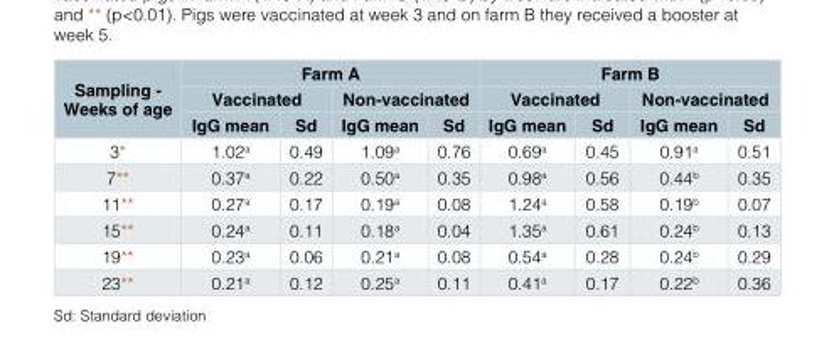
<table><thead><tr><td rowspan="3">Sampling - Weeks of age</td><td colspan="4">Farm A</td><td colspan="4">Farm B</td></tr><tr><td colspan="2">Vaccinated</td><td colspan="2">Non-vaccinated</td><td colspan="2">Vaccinated</td><td colspan="2">Non-vaccinated</td></tr><tr><td>IgG mean</td><td>Sd</td><td>IgG mean</td><td>Sd</td><td>IgG mean</td><td>Sd</td><td>IgG mean</td><td>Sd</td></tr></thead><tbody><tr><td>3*</td><td>1.02<sup>a</sup></td><td>0.49</td><td>1.09<sup>a</sup></td><td>0.76</td><td>0.69<sup>a</sup></td><td>0.45</td><td>0.91<sup>a</sup></td><td>0.51</td></tr><tr><td>7**</td><td>0.37<sup>a</sup></td><td>0.22</td><td>0.50<sup>a</sup></td><td>0.35</td><td>0.98<sup>a</sup></td><td>0.56</td><td>0.44<sup>b</sup></td><td>0.35</td></tr><tr><td>11**</td><td>0.27<sup>a</sup></td><td>0.17</td><td>0.19<sup>a</sup></td><td>0.08</td><td>1.24<sup>a</sup></td><td>0.58</td><td>0.19<sup>b</sup></td><td>0.07</td></tr><tr><td>15**</td><td>0.24<sup>a</sup></td><td>0.11</td><td>0.18<sup>a</sup></td><td>0.04</td><td>1.35<sup>a</sup></td><td>0.61</td><td>0.24<sup>b</sup></td><td>0.13</td></tr><tr><td>19**</td><td>0.23<sup>a</sup></td><td>0.06</td><td>0.21<sup>a</sup></td><td>0.08</td><td>0.54<sup>a</sup></td><td>0.28</td><td>0.24<sup>b</sup></td><td>0.29</td></tr><tr><td>23**</td><td>0.21<sup>a</sup></td><td>0.12</td><td>0.25<sup>a</sup></td><td>0.11</td><td>0.41<sup>a</sup></td><td>0.17</td><td>0.22<sup>b</sup></td><td>0.36</td></tr></tbody></table>